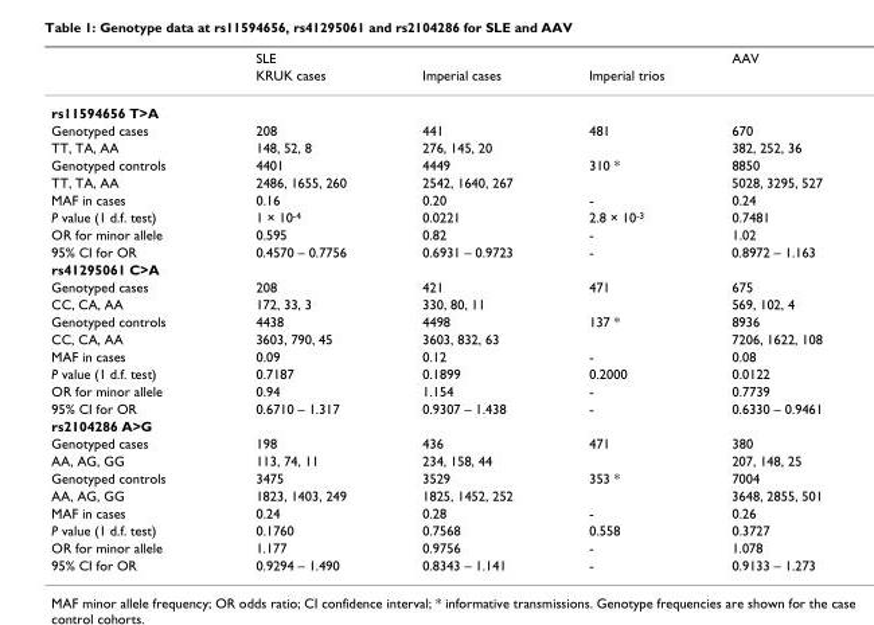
<table><thead><tr><td rowspan="2"></td><td colspan="3">SLE</td><td rowspan="2">AAV</td></tr><tr><td>KRUK cases</td><td>Imperial cases</td><td>Imperial trios</td></tr></thead><tbody><tr><td colspan="5">rs11594656 T&gt;A</td></tr><tr><td>Genotyped cases</td><td>208</td><td>441</td><td>481</td><td>670</td></tr><tr><td>TT, TA, AA</td><td>148, 52, 8</td><td>276, 145, 20</td><td></td><td>382, 252, 36</td></tr><tr><td>Genotyped controls</td><td>4401</td><td>4449</td><td>310 *</td><td>8850</td></tr><tr><td>TT, TA, AA</td><td>2486, 1655, 260</td><td>2542, 1640, 267</td><td></td><td>5028, 3295, 527</td></tr><tr><td>MAF in cases</td><td>0.16</td><td>0.20</td><td>-</td><td>0.24</td></tr><tr><td>P value (1 d.f. test)</td><td>1 × 10<sup>-4</sup></td><td>0.0221</td><td>2.8 × 10<sup>-3</sup></td><td>0.7481</td></tr><tr><td>OR for minor allele</td><td>0.595</td><td>0.82</td><td>-</td><td>1.02</td></tr><tr><td>95% CI for OR</td><td>0.4570 – 0.7756</td><td>0.6931 – 0.9723</td><td>-</td><td>0.8972 – 1.163</td></tr><tr><td colspan="5">rs41295061 C&gt;A</td></tr><tr><td>Genotyped cases</td><td>208</td><td>421</td><td>471</td><td>675</td></tr><tr><td>CC, CA, AA</td><td>172, 33, 3</td><td>330, 80, 11</td><td></td><td>569, 102, 4</td></tr><tr><td>Genotyped controls</td><td>4438</td><td>4498</td><td>137 *</td><td>8936</td></tr><tr><td>CC, CA, AA</td><td>3603, 790, 45</td><td>3603, 832, 63</td><td></td><td>7206, 1622, 108</td></tr><tr><td>MAF in cases</td><td>0.09</td><td>0.12</td><td>-</td><td>0.08</td></tr><tr><td>P value (1 d.f. test)</td><td>0.7187</td><td>0.1899</td><td>0.2000</td><td>0.0122</td></tr><tr><td>OR for minor allele</td><td>0.94</td><td>1.154</td><td>-</td><td>0.7739</td></tr><tr><td>95% CI for OR</td><td>0.6710 – 1.317</td><td>0.9307 – 1.438</td><td>-</td><td>0.6330 – 0.9461</td></tr><tr><td colspan="5">rs2104286 A&gt;G</td></tr><tr><td>Genotyped cases</td><td>198</td><td>436</td><td>471</td><td>380</td></tr><tr><td>AA, AG, GG</td><td>113, 74, 11</td><td>234, 158, 44</td><td></td><td>207, 148, 25</td></tr><tr><td>Genotyped controls</td><td>3475</td><td>3529</td><td>353 *</td><td>7004</td></tr><tr><td>AA, AG, GG</td><td>1823, 1403, 249</td><td>1825, 1452, 252</td><td></td><td>3648, 2855, 501</td></tr><tr><td>MAF in cases</td><td>0.24</td><td>0.28</td><td>-</td><td>0.26</td></tr><tr><td>P value (1 d.f. test)</td><td>0.1760</td><td>0.7568</td><td>0.558</td><td>0.3727</td></tr><tr><td>OR for minor allele</td><td>1.177</td><td>0.9756</td><td>-</td><td>1.078</td></tr><tr><td>95% CI for OR</td><td>0.9294 – 1.490</td><td>0.8343 – 1.141</td><td>-</td><td>0.9133 – 1.273</td></tr></tbody></table>